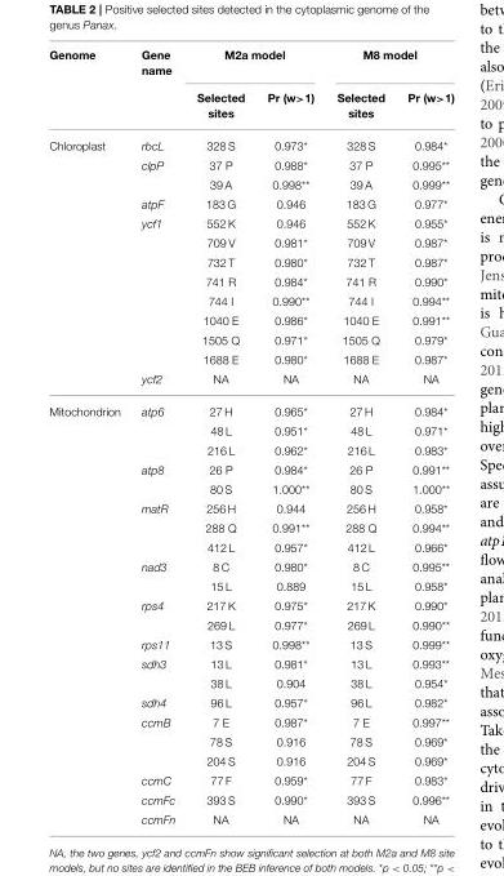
<table><thead><tr><td rowspan="2">Genome</td><td rowspan="2">Gene name</td><td colspan="2">M2a model</td><td colspan="2">M8 model</td></tr><tr><td>Selected sites</td><td>Pr (w&gt;1)</td><td>Selected sites</td><td>Pr (w&gt;1)</td></tr></thead><tbody><tr><td rowspan="13">Chloroplast</td><td>rbcL</td><td>328 S</td><td>0.973*</td><td>328 S</td><td>0.984*</td></tr><tr><td>clpP</td><td>37 P</td><td>0.988*</td><td>37 P</td><td>0.995**</td></tr><tr><td></td><td>39 A</td><td>0.998**</td><td>39 A</td><td>0.999**</td></tr><tr><td>atpF</td><td>183 G</td><td>0.946</td><td>183 G</td><td>0.977*</td></tr><tr><td>ycf1</td><td>552 K</td><td>0.946</td><td>552 K</td><td>0.955*</td></tr><tr><td></td><td>709 V</td><td>0.981*</td><td>709 V</td><td>0.987*</td></tr><tr><td></td><td>732 T</td><td>0.980*</td><td>732 T</td><td>0.987*</td></tr><tr><td></td><td>741 R</td><td>0.984*</td><td>741 R</td><td>0.990*</td></tr><tr><td></td><td>744 I</td><td>0.990**</td><td>744 I</td><td>0.994**</td></tr><tr><td></td><td>1040 E</td><td>0.986*</td><td>1040 E</td><td>0.991**</td></tr><tr><td></td><td>1505 Q</td><td>0.971*</td><td>1505 Q</td><td>0.979*</td></tr><tr><td></td><td>1688 E</td><td>0.980*</td><td>1688 E</td><td>0.987*</td></tr><tr><td>ycf2</td><td>NA</td><td>NA</td><td>NA</td><td>NA</td></tr><tr><td rowspan="22">Mitochondrion</td><td>atp6</td><td>27 H</td><td>0.965*</td><td>27 H</td><td>0.984*</td></tr><tr><td></td><td>48 L</td><td>0.951*</td><td>48 L</td><td>0.971*</td></tr><tr><td></td><td>216 L</td><td>0.962*</td><td>216 L</td><td>0.983*</td></tr><tr><td>atp8</td><td>26 P</td><td>0.984*</td><td>26 P</td><td>0.991**</td></tr><tr><td></td><td>80 S</td><td>1.000**</td><td>80 S</td><td>1.000**</td></tr><tr><td>matR</td><td>256 H</td><td>0.944</td><td>256 H</td><td>0.958*</td></tr><tr><td></td><td>288 Q</td><td>0.991**</td><td>288 Q</td><td>0.994**</td></tr><tr><td></td><td>412 L</td><td>0.957*</td><td>412 L</td><td>0.966*</td></tr><tr><td>nad3</td><td>8 C</td><td>0.980*</td><td>8 C</td><td>0.995**</td></tr><tr><td></td><td>15 L</td><td>0.889</td><td>15 L</td><td>0.958*</td></tr><tr><td>rps4</td><td>217 K</td><td>0.975*</td><td>217 K</td><td>0.990*</td></tr><tr><td></td><td>269 L</td><td>0.977*</td><td>269 L</td><td>0.990**</td></tr><tr><td>rps11</td><td>13 S</td><td>0.998**</td><td>13 S</td><td>0.999**</td></tr><tr><td>sdh3</td><td>13 L</td><td>0.981*</td><td>13 L</td><td>0.993**</td></tr><tr><td></td><td>38 L</td><td>0.904</td><td>38 L</td><td>0.954*</td></tr><tr><td>sdh4</td><td>96 L</td><td>0.957*</td><td>96 L</td><td>0.982*</td></tr><tr><td>ccmB</td><td>7 E</td><td>0.987*</td><td>7 E</td><td>0.997**</td></tr><tr><td></td><td>78 S</td><td>0.916</td><td>78 S</td><td>0.969*</td></tr><tr><td></td><td>204 S</td><td>0.916</td><td>204 S</td><td>0.969*</td></tr><tr><td>ccmC</td><td>77 F</td><td>0.959*</td><td>77 F</td><td>0.983*</td></tr><tr><td>ccmFc</td><td>393 S</td><td>0.990*</td><td>393 S</td><td>0.996**</td></tr><tr><td>ccmFn</td><td>NA</td><td>NA</td><td>NA</td><td>NA</td></tr></tbody></table>